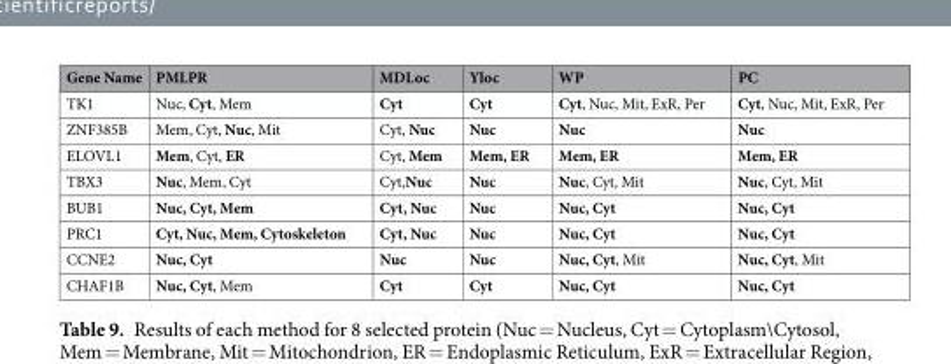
<table><thead><tr><td>Gene Name</td><td>PMLPR</td><td>MDLoc</td><td>Yloc</td><td>WP</td><td>PC</td></tr></thead><tbody><tr><td>TK1</td><td>Nuc, Cyt, Mem</td><td>Cyt</td><td>Cyt</td><td>Cyt, Nuc, Mit, ExR, Per</td><td>Cyt, Nuc, Mit, ExR, Per</td></tr><tr><td>ZNF385B</td><td>Mem, Cyt, Nuc, Mit</td><td>Cyt, Nuc</td><td>Nuc</td><td>Nuc</td><td>Nuc</td></tr><tr><td>ELOVL1</td><td>Mem, Cyt, ER</td><td>Cyt, Mem</td><td>Mem, ER</td><td>Mem, ER</td><td>Mem, ER</td></tr><tr><td>TBX3</td><td>Nuc, Mem, Cyt</td><td>Cyt,Nuc</td><td>Nuc</td><td>Nuc, Cyt, Mit</td><td>Nuc, Cyt, Mit</td></tr><tr><td>BUB1</td><td>Nuc, Cyt, Mem</td><td>Cyt, Nuc</td><td>Nuc</td><td>Nuc, Cyt</td><td>Nuc, Cyt</td></tr><tr><td>PRC1</td><td>Cyt, Nuc, Mem, Cytoskeleton</td><td>Cyt, Nuc</td><td>Nuc</td><td>Nuc, Cyt</td><td>Nuc, Cyt</td></tr><tr><td>CCNE2</td><td>Nuc, Cyt</td><td>Nuc</td><td>Nuc</td><td>Nuc, Cyt, Mit</td><td>Nuc, Cyt, Mit</td></tr><tr><td>CHAF1B</td><td>Nuc, Cyt, Mem</td><td>Cyt</td><td>Cyt</td><td>Nuc, Cyt</td><td>Nuc, Cyt</td></tr></tbody></table>